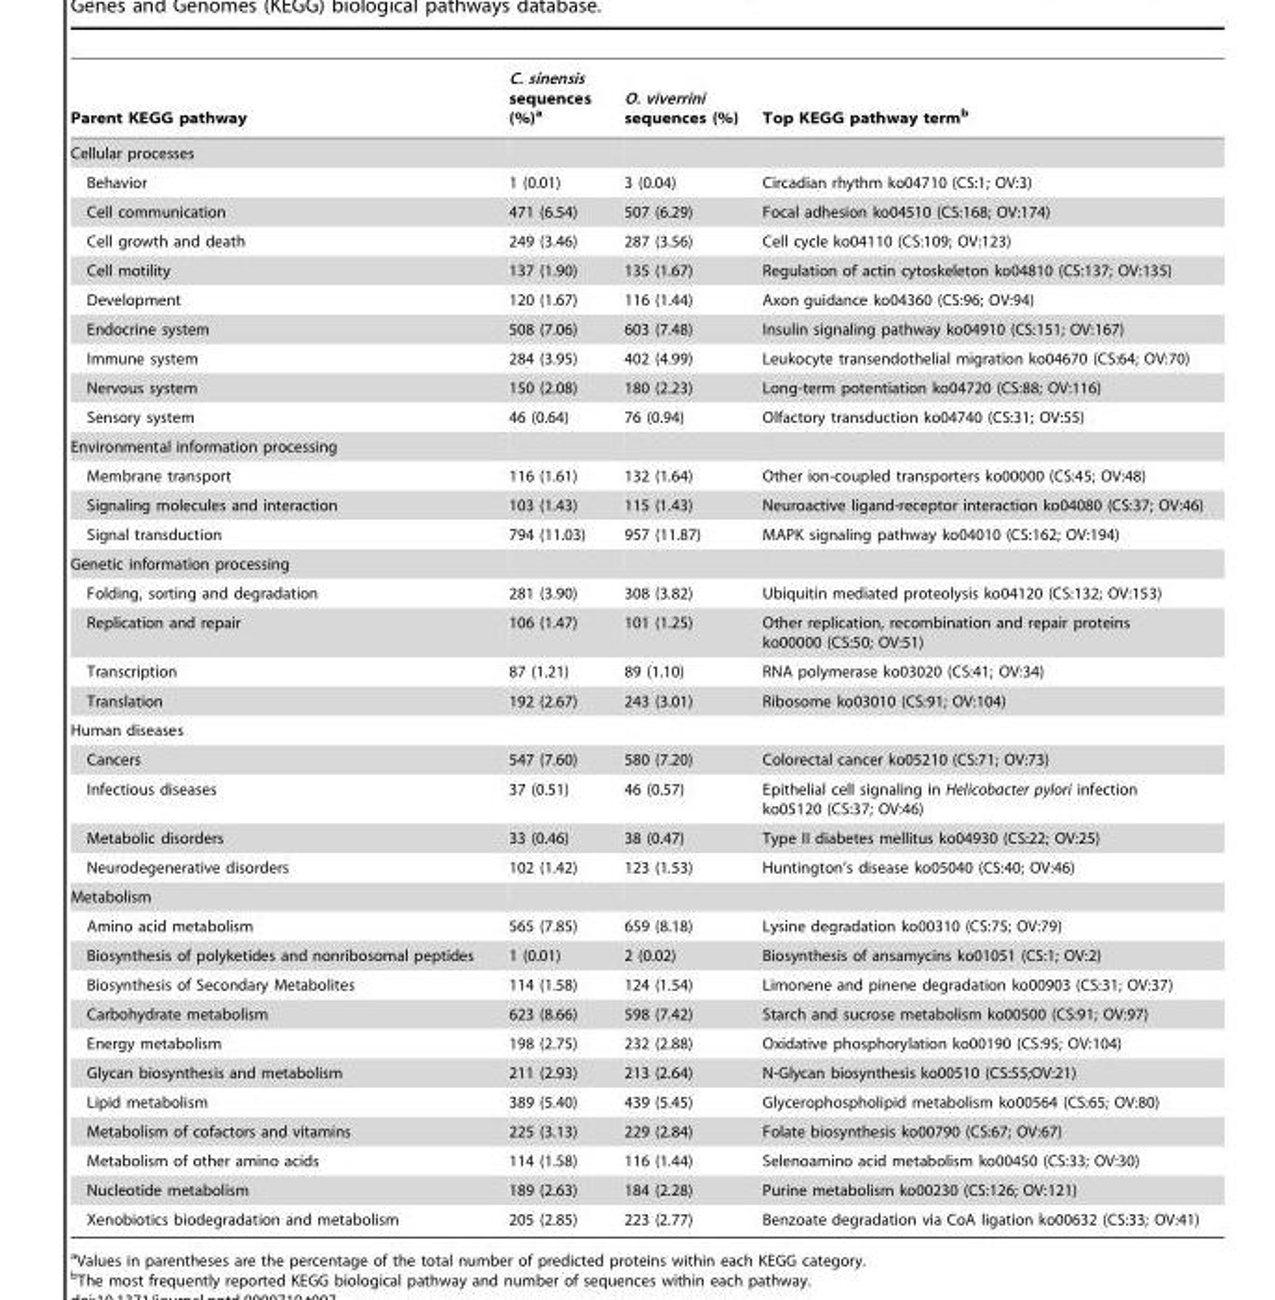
<table><thead><tr><td>Parent KEGG pathway</td><td>C. sinensis sequences (%)<sup>a</sup></td><td>O. viverrini sequences (%)</td><td>Top KEGG pathway term<sup>b</sup></td></tr></thead><tbody><tr><td colspan="4">Cellular processes</td></tr><tr><td>Behavior</td><td>1 (0.01)</td><td>3 (0.04)</td><td>Circadian rhythm ko04710 (CS:1; OV:3)</td></tr><tr><td>Cell communication</td><td>471 (6.54)</td><td>507 (6.29)</td><td>Focal adhesion ko04510 (CS:168; OV:174)</td></tr><tr><td>Cell growth and death</td><td>249 (3.46)</td><td>287 (3.56)</td><td>Cell cycle ko04110 (CS:109; OV:123)</td></tr><tr><td>Cell motility</td><td>137 (1.90)</td><td>135 (1.67)</td><td>Regulation of actin cytoskeleton ko04810 (CS:137; OV:135)</td></tr><tr><td>Development</td><td>120 (1.67)</td><td>116 (1.44)</td><td>Axon guidance ko04360 (CS:96; OV:94)</td></tr><tr><td>Endocrine system</td><td>508 (7.06)</td><td>603 (7.48)</td><td>Insulin signaling pathway ko04910 (CS:151; OV:167)</td></tr><tr><td>Immune system</td><td>284 (3.95)</td><td>402 (4.99)</td><td>Leukocyte transendothelial migration ko04670 (CS:64; OV:70)</td></tr><tr><td>Nervous system</td><td>150 (2.08)</td><td>180 (2.23)</td><td>Long-term potentiation ko04720 (CS:88; OV:116)</td></tr><tr><td>Sensory system</td><td>46 (0.64)</td><td>76 (0.94)</td><td>Olfactory transduction ko04740 (CS:31; OV:55)</td></tr><tr><td colspan="4">Environmental information processing</td></tr><tr><td>Membrane transport</td><td>116 (1.61)</td><td>132 (1.64)</td><td>Other ion-coupled transporters ko00000 (CS:45; OV:48)</td></tr><tr><td>Signaling molecules and interaction</td><td>103 (1.43)</td><td>115 (1.43)</td><td>Neuroactive ligand-receptor interaction ko04080 (CS:37; OV:46)</td></tr><tr><td>Signal transduction</td><td>794 (11.03)</td><td>957 (11.87)</td><td>MAPK signaling pathway ko04010 (CS:162; OV:194)</td></tr><tr><td colspan="4">Genetic information processing</td></tr><tr><td>Folding, sorting and degradation</td><td>281 (3.90)</td><td>308 (3.82)</td><td>Ubiquitin mediated proteolysis ko04120 (CS:132; OV:153)</td></tr><tr><td>Replication and repair</td><td>106 (1.47)</td><td>101 (1.25)</td><td>Other replication, recombination and repair proteins ko00000 (CS:50; OV:51)</td></tr><tr><td>Transcription</td><td>87 (1.21)</td><td>89 (1.10)</td><td>RNA polymerase ko03020 (CS:41; OV:34)</td></tr><tr><td>Translation</td><td>192 (2.67)</td><td>243 (3.01)</td><td>Ribosome ko03010 (CS:91; OV:104)</td></tr><tr><td colspan="4">Human diseases</td></tr><tr><td>Cancers</td><td>547 (7.60)</td><td>580 (7.20)</td><td>Colorectal cancer ko05210 (CS:71; OV:73)</td></tr><tr><td>Infectious diseases</td><td>37 (0.51)</td><td>46 (0.57)</td><td>Epithelial cell signaling in Helicobacter pylori infection ko05120 (CS:37; OV:46)</td></tr><tr><td>Metabolic disorders</td><td>33 (0.46)</td><td>38 (0.47)</td><td>Type II diabetes mellitus ko04930 (CS:22; OV:25)</td></tr><tr><td>Neurodegenerative disorders</td><td>102 (1.42)</td><td>123 (1.53)</td><td>Huntington’s disease ko05040 (CS:40; OV:46)</td></tr><tr><td colspan="4">Metabolism</td></tr><tr><td>Amino acid metabolism</td><td>565 (7.85)</td><td>659 (8.18)</td><td>Lysine degradation ko00310 (CS:75; OV:79)</td></tr><tr><td>Biosynthesis of polyketides and nonribosomal peptides</td><td>1 (0.01)</td><td>2 (0.02)</td><td>Biosynthesis of ansamycins ko01051 (CS:1; OV:2)</td></tr><tr><td>Biosynthesis of Secondary Metabolites</td><td>114 (1.58)</td><td>124 (1.54)</td><td>Limonene and pinene degradation ko00903 (CS:31; OV:37)</td></tr><tr><td>Carbohydrate metabolism</td><td>623 (8.66)</td><td>598 (7.42)</td><td>Starch and sucrose metabolism ko00500 (CS:91; OV:97)</td></tr><tr><td>Energy metabolism</td><td>198 (2.75)</td><td>232 (2.88)</td><td>Oxidative phosphorylation ko00190 (CS:95; OV:104)</td></tr><tr><td>Glycan biosynthesis and metabolism</td><td>211 (2.93)</td><td>213 (2.64)</td><td>N-Glycan biosynthesis ko00510 (CS:55;OV:21)</td></tr><tr><td>Lipid metabolism</td><td>389 (5.40)</td><td>439 (5.45)</td><td>Glycerophospholipid metabolism ko00564 (CS:65; OV:80)</td></tr><tr><td>Metabolism of cofactors and vitamins</td><td>225 (3.13)</td><td>229 (2.84)</td><td>Folate biosynthesis ko00790 (CS:67; OV:67)</td></tr><tr><td>Metabolism of other amino acids</td><td>114 (1.58)</td><td>116 (1.44)</td><td>Selenoamino acid metabolism ko00450 (CS:33; OV:30)</td></tr><tr><td>Nucleotide metabolism</td><td>189 (2.63)</td><td>184 (2.28)</td><td>Purine metabolism ko00230 (CS:126; OV:121)</td></tr><tr><td>Xenobiotics biodegradation and metabolism</td><td>205 (2.85)</td><td>223 (2.77)</td><td>Benzoate degradation via CoA ligation ko00632 (CS:33; OV:41)</td></tr></tbody></table>